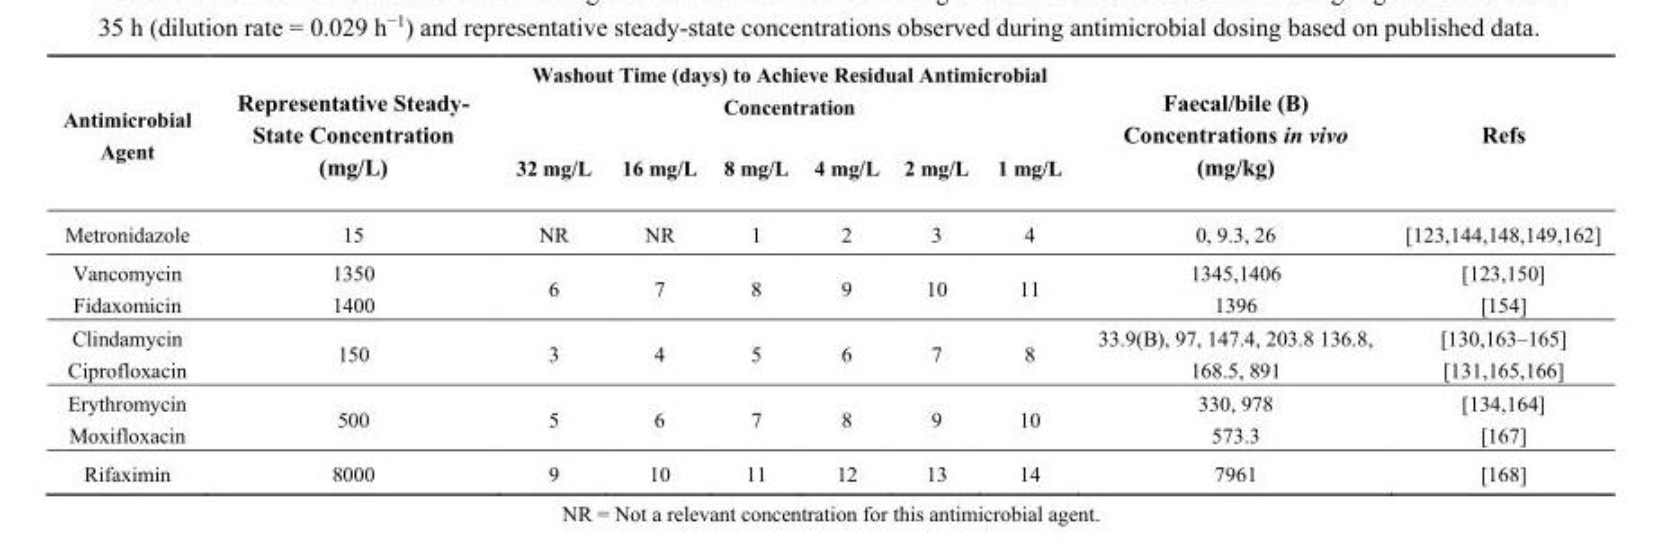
<table><thead><tr><td rowspan="2">Antimicrobial Agent</td><td rowspan="2">Representative Steady- State Concentration (mg/L)</td><td colspan="6">Washout Time (days) to Achieve Residual Antimicrobial Concentration</td><td rowspan="2">Faecal/bile (B) Concentrations in vivo (mg/kg)</td><td rowspan="2">Refs</td></tr><tr><td>32 mg/L</td><td>16 mg/L</td><td>8 mg/L</td><td>4 mg/L</td><td>2 mg/L</td><td>1 mg/L</td></tr></thead><tbody><tr><td>Metronidazole</td><td>15</td><td>NR</td><td>NR</td><td>1</td><td>2</td><td>3</td><td>4</td><td>0, 9.3, 26</td><td>[123,144,148,149,162]</td></tr><tr><td>Vancomycin Fidaxomicin</td><td>1350 1400</td><td>6</td><td>7</td><td>8</td><td>9</td><td>10</td><td>11</td><td>1345,1406 1396</td><td>[123,150] [154]</td></tr><tr><td>Clindamycin Ciprofloxacin</td><td>150</td><td>3</td><td>4</td><td>5</td><td>6</td><td>7</td><td>8</td><td>33.9(B), 97, 147.4, 203.8 136.8, 168.5, 891</td><td>[130,163–165] [131,165,166]</td></tr><tr><td>Erythromycin Moxifloxacin</td><td>500</td><td>5</td><td>6</td><td>7</td><td>8</td><td>9</td><td>10</td><td>330, 978 573.3</td><td>[134,164] [167]</td></tr><tr><td>Rifaximin</td><td>8000</td><td>9</td><td>10</td><td>11</td><td>12</td><td>13</td><td>14</td><td>7961</td><td>[168]</td></tr></tbody></table>